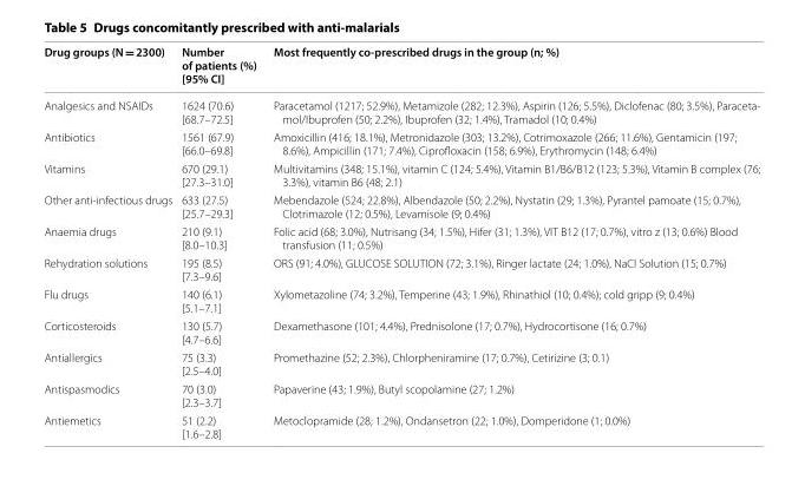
<table><thead><tr><td>Drug groups (N = 2300)</td><td>Number of patients (%) [95% CI]</td><td>Most frequently co-prescribed drugs in the group (n; %)</td></tr></thead><tbody><tr><td>Analgesics and NSAIDs</td><td>1624 (70.6) [68.7–72.5]</td><td>Paracetamol (1217; 52.9%), Metamizole (282; 12.3%), Aspirin (126; 5.5%), Diclofenac (80; 3.5%), Paraceta‑ mol/Ibuprofen (50; 2.2%), Ibuprofen (32; 1.4%), Tramadol (10; 0.4%)</td></tr><tr><td>Antibiotics</td><td>1561 (67.9) [66.0–69.8]</td><td>Amoxicillin (416; 18.1%), Metronidazole (303; 13.2%), Cotrimoxazole (266; 11.6%), Gentamicin (197; 8.6%), Ampicillin (171; 7.4%), Ciprofloxacin (158; 6.9%), Erythromycin (148; 6.4%)</td></tr><tr><td>Vitamins</td><td>670 (29.1) [27.3–31.0]</td><td>Multivitamins (348; 15.1%), vitamin C (124; 5.4%), Vitamin B1/B6/B12 (123; 5.3%), Vitamin B complex (76; 3.3%), vitamin B6 (48; 2.1)</td></tr><tr><td>Other anti‑infectious drugs</td><td>633 (27.5) [25.7–29.3]</td><td>Mebendazole (524; 22.8%), Albendazole (50; 2.2%), Nystatin (29; 1.3%), Pyrantel pamoate (15; 0.7%), Clotrimazole (12; 0.5%), Levamisole (9; 0.4%)</td></tr><tr><td>Anaemia drugs</td><td>210 (9.1) [8.0–10.3]</td><td>Folic acid (68; 3.0%), Nutrisang (34; 1.5%), Hifer (31; 1.3%), VIT B12 (17; 0.7%), vitro z (13; 0.6%) Blood transfusion (11; 0.5%)</td></tr><tr><td>Rehydration solutions</td><td>195 (8.5) [7.3–9.6]</td><td>ORS (91; 4.0%), GLUCOSE SOLUTION (72; 3.1%), Ringer lactate (24; 1.0%), NaCl Solution (15; 0.7%)</td></tr><tr><td>Flu drugs</td><td>140 (6.1) [5.1–7.1]</td><td>Xylometazoline (74; 3.2%), Temperine (43; 1.9%), Rhinathiol (10; 0.4%); cold gripp (9; 0.4%)</td></tr><tr><td>Corticosteroids</td><td>130 (5.7) [4.7–6.6]</td><td>Dexamethasone (101; 4.4%), Prednisolone (17; 0.7%), Hydrocortisone (16; 0.7%)</td></tr><tr><td>Antiallergics</td><td>75 (3.3) [2.5–4.0]</td><td>Promethazine (52; 2.3%), Chlorpheniramine (17; 0.7%), Cetirizine (3; 0.1)</td></tr><tr><td>Antispasmodics</td><td>70 (3.0) [2.3–3.7]</td><td>Papaverine (43; 1.9%), Butyl scopolamine (27; 1.2%)</td></tr><tr><td>Antiemetics</td><td>51 (2.2) [1.6–2.8]</td><td>Metoclopramide (28; 1.2%), Ondansetron (22; 1.0%), Domperidone (1; 0.0%)</td></tr></tbody></table>